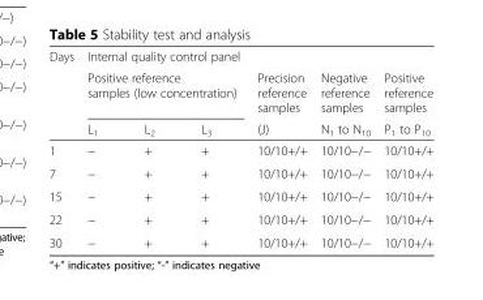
<table><thead><tr><td rowspan="3">Days</td><td colspan="6">Internal quality control panel</td></tr><tr><td colspan="3">Positive reference samples (low concentration)</td><td rowspan="2">Precision reference samples (J)</td><td rowspan="2">Negative reference samples N<sub>1</sub> to N<sub>10</sub></td><td rowspan="2">Positive reference samples P<sub>1</sub> to P<sub>10</sub></td></tr><tr><td>L<sub>1</sub></td><td>L<sub>2</sub></td><td>L<sub>3</sub></td></tr></thead><tbody><tr><td>1</td><td>−</td><td>+</td><td>+</td><td>10/10+/+</td><td>10/10−/−</td><td>10/10+/+</td></tr><tr><td>7</td><td>−</td><td>+</td><td>+</td><td>10/10+/+</td><td>10/10−/−</td><td>10/10+/+</td></tr><tr><td>15</td><td>−</td><td>+</td><td>+</td><td>10/10+/+</td><td>10/10−/−</td><td>10/10+/+</td></tr><tr><td>22</td><td>−</td><td>+</td><td>+</td><td>10/10+/+</td><td>10/10−/−</td><td>10/10+/+</td></tr><tr><td>30</td><td>−</td><td>+</td><td>+</td><td>10/10+/+</td><td>10/10−/−</td><td>10/10+/+</td></tr></tbody></table>